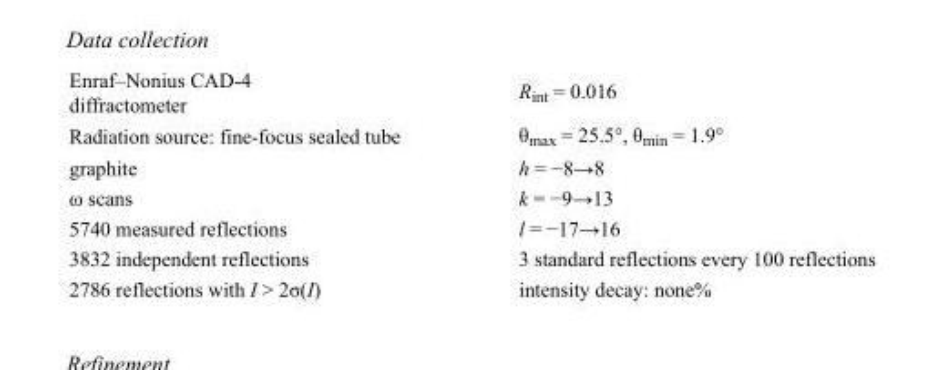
<table><tbody><tr><td>Enraf–Nonius CAD-4 diffractometer</td><td>R<sub>int</sub> = 0.016</td></tr><tr><td>Radiation source: fine-focus sealed tube</td><td>θ<sub>max</sub> = 25.5°, θ<sub>min</sub> = 1.9°</td></tr><tr><td>graphite</td><td>h = −8→8</td></tr><tr><td>ω scans</td><td>k = −9→13</td></tr><tr><td>5740 measured reflections</td><td>l = −17→16</td></tr><tr><td>3832 independent reflections</td><td>3 standard reflections every 100 reflections</td></tr><tr><td>2786 reflections with I &gt; 2σ(I)</td><td>intensity decay: none%</td></tr></tbody></table>